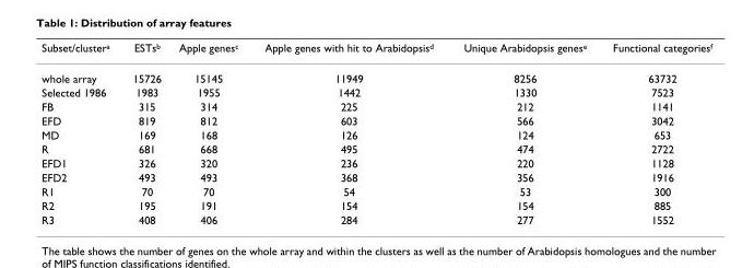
<table><thead><tr><td>Subset/cluster<sup>a</sup></td><td>ESTs<sup>b</sup></td><td>Apple genes<sup>c</sup></td><td>Apple genes with hit to Arabidopsis<sup>d</sup></td><td>Unique Arabidopsis genes<sup>e</sup></td><td>Functional categories<sup>f</sup></td></tr></thead><tbody><tr><td>whole array</td><td>15726</td><td>15145</td><td>11949</td><td>8256</td><td>63732</td></tr><tr><td>Selected 1986</td><td>1983</td><td>1955</td><td>1442</td><td>1330</td><td>7523</td></tr><tr><td>FB</td><td>315</td><td>314</td><td>225</td><td>212</td><td>1141</td></tr><tr><td>EFD</td><td>819</td><td>812</td><td>603</td><td>566</td><td>3042</td></tr><tr><td>MD</td><td>169</td><td>168</td><td>126</td><td>124</td><td>653</td></tr><tr><td>R</td><td>681</td><td>668</td><td>495</td><td>474</td><td>2722</td></tr><tr><td>EFD1</td><td>326</td><td>320</td><td>236</td><td>220</td><td>1128</td></tr><tr><td>EFD2</td><td>493</td><td>493</td><td>368</td><td>356</td><td>1916</td></tr><tr><td>R1</td><td>70</td><td>70</td><td>54</td><td>53</td><td>300</td></tr><tr><td>R2</td><td>195</td><td>191</td><td>154</td><td>154</td><td>885</td></tr><tr><td>R3</td><td>408</td><td>406</td><td>284</td><td>277</td><td>1552</td></tr></tbody></table>